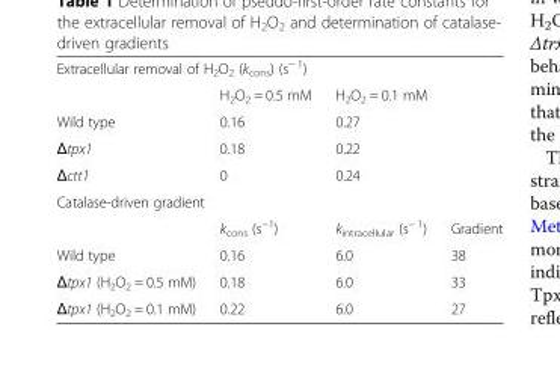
<table><tbody><tr><td colspan="4">Extracellular removal of H<sub>2</sub>O<sub>2</sub> (k<sub>cons</sub>) (s<sup>− 1</sup>)</td></tr><tr><td></td><td>H<sub>2</sub>O<sub>2</sub> = 0.5 mM</td><td>H<sub>2</sub>O<sub>2</sub> = 0.1 mM</td><td rowspan="4"></td></tr><tr><td>Wild type</td><td>0.16</td><td>0.27</td></tr><tr><td>Δtpx1</td><td>0.18</td><td>0.22</td></tr><tr><td>Δctt1</td><td>0</td><td>0.24</td></tr><tr><td colspan="4">Catalase-driven gradient</td></tr><tr><td></td><td>k<sub>cons</sub> (s<sup>−1</sup>)</td><td>k<sub>intracellular</sub> (s<sup>− 1</sup>)</td><td>Gradient</td></tr><tr><td>Wild type</td><td>0.16</td><td>6.0</td><td>38</td></tr><tr><td>Δtpx1 (H<sub>2</sub>O<sub>2</sub> = 0.5 mM)</td><td>0.18</td><td>6.0</td><td>33</td></tr><tr><td>Δtpx1 (H<sub>2</sub>O<sub>2</sub> = 0.1 mM)</td><td>0.22</td><td>6.0</td><td>27</td></tr></tbody></table>